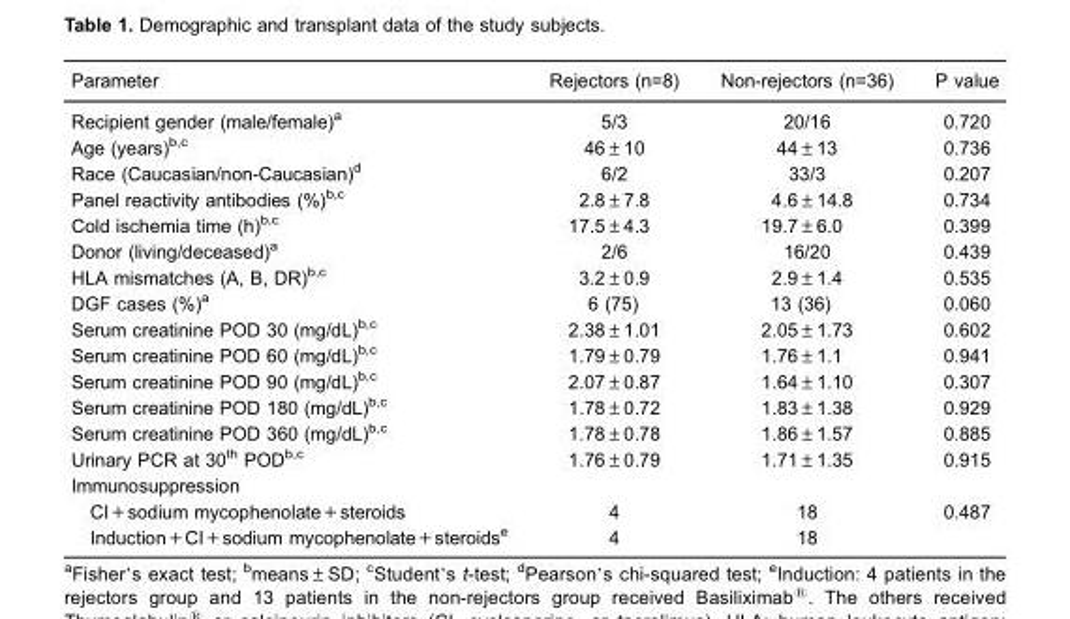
<table><thead><tr><td>Parameter</td><td>Rejectors (n=8)</td><td>Non-rejectors (n=36)</td><td>P value</td></tr></thead><tbody><tr><td>Recipient gender (male/female)<sup>a</sup></td><td>5/3</td><td>20/16</td><td>0.720</td></tr><tr><td>Age (years)<sup>b,c</sup></td><td>46±10</td><td>44±13</td><td>0.736</td></tr><tr><td>Race (Caucasian/non-Caucasian)<sup>d</sup></td><td>6/2</td><td>33/3</td><td>0.207</td></tr><tr><td>Panel reactivity antibodies (%)<sup>b,c</sup></td><td>2.8±7.8</td><td>4.6±14.8</td><td>0.734</td></tr><tr><td>Cold ischemia time (h)<sup>b,c</sup></td><td>17.5±4.3</td><td>19.7±6.0</td><td>0.399</td></tr><tr><td>Donor (living/deceased)<sup>a</sup></td><td>2/6</td><td>16/20</td><td>0.439</td></tr><tr><td>HLA mismatches (A, B, DR)<sup>b,c</sup></td><td>3.2±0.9</td><td>2.9±1.4</td><td>0.535</td></tr><tr><td>DGF cases (%)<sup>a</sup></td><td>6 (75)</td><td>13 (36)</td><td>0.060</td></tr><tr><td>Serum creatinine POD 30 (mg/dL)<sup>b,c</sup></td><td>2.38±1.01</td><td>2.05±1.73</td><td>0.602</td></tr><tr><td>Serum creatinine POD 60 (mg/dL)<sup>b,c</sup></td><td>1.79±0.79</td><td>1.76±1.1</td><td>0.941</td></tr><tr><td>Serum creatinine POD 90 (mg/dL)<sup>b,c</sup></td><td>2.07±0.87</td><td>1.64±1.10</td><td>0.307</td></tr><tr><td>Serum creatinine POD 180 (mg/dL)<sup>b,c</sup></td><td>1.78±0.72</td><td>1.83±1.38</td><td>0.929</td></tr><tr><td>Serum creatinine POD 360 (mg/dL)<sup>b,c</sup></td><td>1.78±0.78</td><td>1.86±1.57</td><td>0.885</td></tr><tr><td>Urinary PCR at 30<sup>th</sup> POD<sup>b,c</sup></td><td>1.76±0.79</td><td>1.71±1.35</td><td>0.915</td></tr><tr><td colspan="4">Immunosuppression</td></tr><tr><td>CI+sodium mycophenolate+steroids</td><td>4</td><td>18</td><td>0.487</td></tr><tr><td>Induction+CI+sodium mycophenolate+steroids<sup>e</sup></td><td>4</td><td>18</td><td></td></tr></tbody></table>